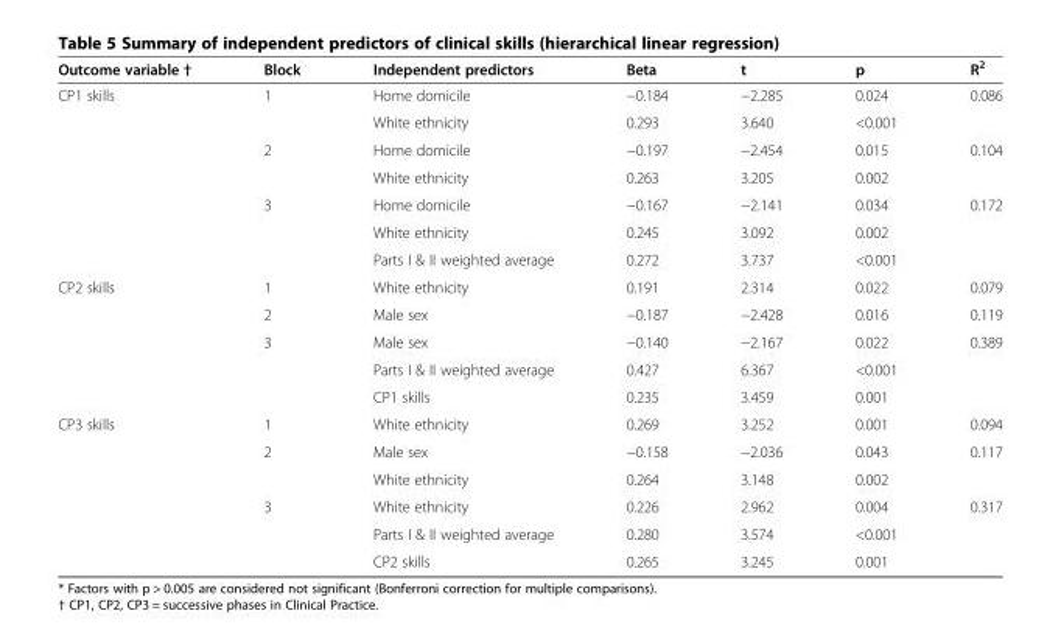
<table><thead><tr><td>Outcome variable †</td><td>Block</td><td>Independent predictors</td><td>Beta</td><td>t</td><td>p</td><td>R<sup>2</sup></td></tr></thead><tbody><tr><td rowspan="7">CP1 skills</td><td>1</td><td>Home domicile</td><td>−0.184</td><td>−2.285</td><td>0.024</td><td>0.086</td></tr><tr><td></td><td>White ethnicity</td><td>0.293</td><td>3.640</td><td>&lt;0.001</td><td></td></tr><tr><td>2</td><td>Home domicile</td><td>−0.197</td><td>−2.454</td><td>0.015</td><td>0.104</td></tr><tr><td></td><td>White ethnicity</td><td>0.263</td><td>3.205</td><td>0.002</td><td></td></tr><tr><td>3</td><td>Home domicile</td><td>−0.167</td><td>−2.141</td><td>0.034</td><td>0.172</td></tr><tr><td></td><td>White ethnicity</td><td>0.245</td><td>3.092</td><td>0.002</td><td></td></tr><tr><td></td><td>Parts I &amp; II weighted average</td><td>0.272</td><td>3.737</td><td>&lt;0.001</td><td></td></tr><tr><td rowspan="5">CP2 skills</td><td>1</td><td>White ethnicity</td><td>0.191</td><td>2.314</td><td>0.022</td><td>0.079</td></tr><tr><td>2</td><td>Male sex</td><td>−0.187</td><td>−2.428</td><td>0.016</td><td>0.119</td></tr><tr><td>3</td><td>Male sex</td><td>−0.140</td><td>−2.167</td><td>0.022</td><td>0.389</td></tr><tr><td></td><td>Parts I &amp; II weighted average</td><td>0.427</td><td>6.367</td><td>&lt;0.001</td><td></td></tr><tr><td></td><td>CP1 skills</td><td>0.235</td><td>3.459</td><td>0.001</td><td></td></tr><tr><td rowspan="6">CP3 skills</td><td>1</td><td>White ethnicity</td><td>0.269</td><td>3.252</td><td>0.001</td><td>0.094</td></tr><tr><td>2</td><td>Male sex</td><td>−0.158</td><td>−2.036</td><td>0.043</td><td>0.117</td></tr><tr><td></td><td>White ethnicity</td><td>0.264</td><td>3.148</td><td>0.002</td><td></td></tr><tr><td>3</td><td>White ethnicity</td><td>0.226</td><td>2.962</td><td>0.004</td><td>0.317</td></tr><tr><td></td><td>Parts I &amp; II weighted average</td><td>0.280</td><td>3.574</td><td>&lt;0.001</td><td></td></tr><tr><td></td><td>CP2 skills</td><td>0.265</td><td>3.245</td><td>0.001</td><td></td></tr></tbody></table>